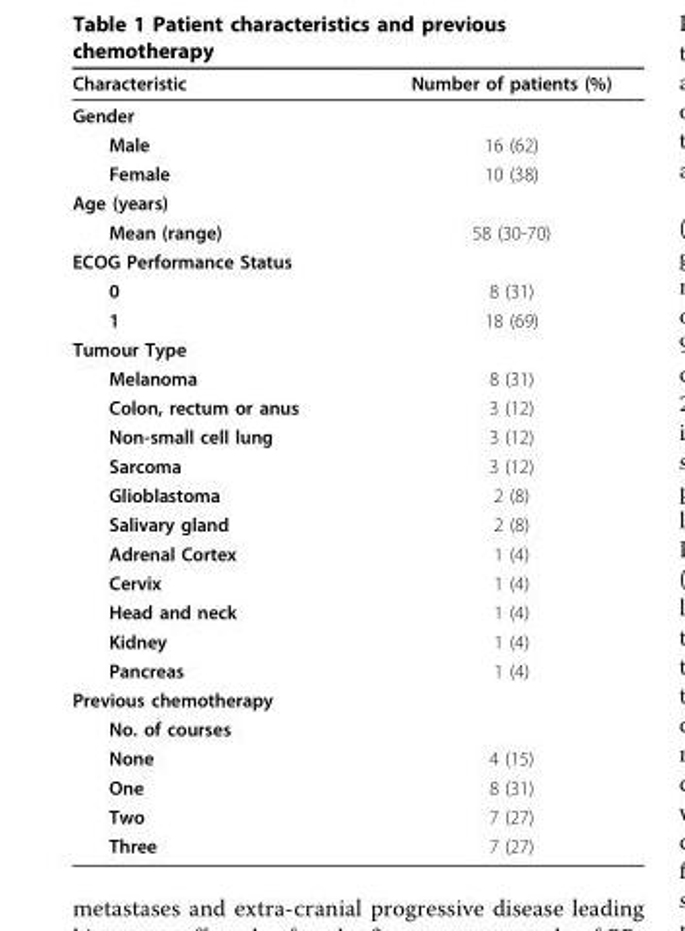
<table><thead><tr><td>Characteristic</td><td>Number of patients (%)</td></tr></thead><tbody><tr><td colspan="2">Gender</td></tr><tr><td>Male</td><td>16 (62)</td></tr><tr><td>Female</td><td>10 (38)</td></tr><tr><td colspan="2">Age (years)</td></tr><tr><td>Mean (range)</td><td>58 (30-70)</td></tr><tr><td colspan="2">ECOG Performance Status</td></tr><tr><td>0</td><td>8 (31)</td></tr><tr><td>1</td><td>18 (69)</td></tr><tr><td colspan="2">Tumour Type</td></tr><tr><td>Melanoma</td><td>8 (31)</td></tr><tr><td>Colon, rectum or anus</td><td>3 (12)</td></tr><tr><td>Non-small cell lung</td><td>3 (12)</td></tr><tr><td>Sarcoma</td><td>3 (12)</td></tr><tr><td>Glioblastoma</td><td>2 (8)</td></tr><tr><td>Salivary gland</td><td>2 (8)</td></tr><tr><td>Adrenal Cortex</td><td>1 (4)</td></tr><tr><td>Cervix</td><td>1 (4)</td></tr><tr><td>Head and neck</td><td>1 (4)</td></tr><tr><td>Kidney</td><td>1 (4)</td></tr><tr><td>Pancreas</td><td>1 (4)</td></tr><tr><td colspan="2">Previous chemotherapy</td></tr><tr><td colspan="2">No. of courses</td></tr><tr><td>None</td><td>4 (15)</td></tr><tr><td>One</td><td>8 (31)</td></tr><tr><td>Two</td><td>7 (27)</td></tr><tr><td>Three</td><td>7 (27)</td></tr></tbody></table>